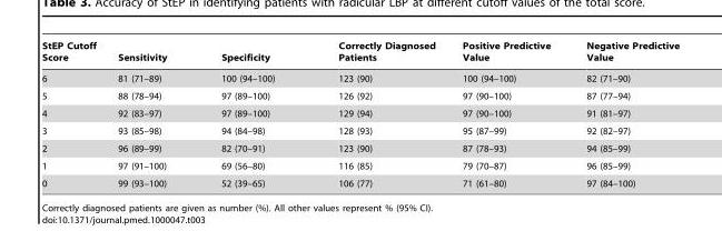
<table><thead><tr><td>StEP Cutoff Score</td><td>Sensitivity</td><td>Specificity</td><td>Correctly Diagnosed Patients</td><td>Positive Predictive Value</td><td>Negative Predictive Value</td></tr></thead><tbody><tr><td>6</td><td>81 (71–89)</td><td>100 (94–100)</td><td>123 (90)</td><td>100 (94–100)</td><td>82 (71–90)</td></tr><tr><td>5</td><td>88 (78–94)</td><td>97 (89–100)</td><td>126 (92)</td><td>97 (90–100)</td><td>87 (77–94)</td></tr><tr><td>4</td><td>92 (83–97)</td><td>97 (89–100)</td><td>129 (94)</td><td>97 (90–100)</td><td>91 (81–97)</td></tr><tr><td>3</td><td>93 (85–98)</td><td>94 (84–98)</td><td>128 (93)</td><td>95 (87–99)</td><td>92 (82–97)</td></tr><tr><td>2</td><td>96 (89–99)</td><td>82 (70–91)</td><td>123 (90)</td><td>87 (78–93)</td><td>94 (85–99)</td></tr><tr><td>1</td><td>97 (91–100)</td><td>69 (56–80)</td><td>116 (85)</td><td>79 (70–87)</td><td>96 (85–99)</td></tr><tr><td>0</td><td>99 (93–100)</td><td>52 (39–65)</td><td>106 (77)</td><td>71 (61–80)</td><td>97 (84–100)</td></tr></tbody></table>